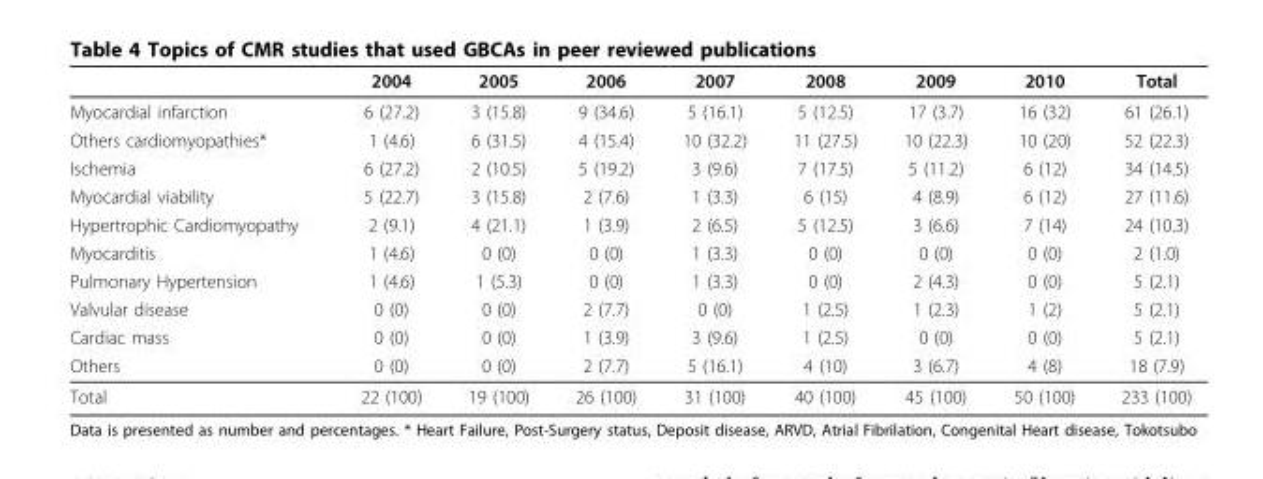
<table><thead><tr><td></td><td>2004</td><td>2005</td><td>2006</td><td>2007</td><td>2008</td><td>2009</td><td>2010</td><td>Total</td></tr></thead><tbody><tr><td>Myocardial infarction</td><td>6 (27.2)</td><td>3 (15.8)</td><td>9 (34.6)</td><td>5 (16.1)</td><td>5 (12.5)</td><td>17 (3.7)</td><td>16 (32)</td><td>61 (26.1)</td></tr><tr><td>Others cardiomyopathies*</td><td>1 (4.6)</td><td>6 (31.5)</td><td>4 (15.4)</td><td>10 (32.2)</td><td>11 (27.5)</td><td>10 (22.3)</td><td>10 (20)</td><td>52 (22.3)</td></tr><tr><td>Ischemia</td><td>6 (27.2)</td><td>2 (10.5)</td><td>5 (19.2)</td><td>3 (9.6)</td><td>7 (17.5)</td><td>5 (11.2)</td><td>6 (12)</td><td>34 (14.5)</td></tr><tr><td>Myocardial viability</td><td>5 (22.7)</td><td>3 (15.8)</td><td>2 (7.6)</td><td>1 (3.3)</td><td>6 (15)</td><td>4 (8.9)</td><td>6 (12)</td><td>27 (11.6)</td></tr><tr><td>Hypertrophic Cardiomyopathy</td><td>2 (9.1)</td><td>4 (21.1)</td><td>1 (3.9)</td><td>2 (6.5)</td><td>5 (12.5)</td><td>3 (6.6)</td><td>7 (14)</td><td>24 (10.3)</td></tr><tr><td>Myocarditis</td><td>1 (4.6)</td><td>0 (0)</td><td>0 (0)</td><td>1 (3.3)</td><td>0 (0)</td><td>0 (0)</td><td>0 (0)</td><td>2 (1.0)</td></tr><tr><td>Pulmonary Hypertension</td><td>1 (4.6)</td><td>1 (5.3)</td><td>0 (0)</td><td>1 (3.3)</td><td>0 (0)</td><td>2 (4.3)</td><td>0 (0)</td><td>5 (2.1)</td></tr><tr><td>Valvular disease</td><td>0 (0)</td><td>0 (0)</td><td>2 (7.7)</td><td>0 (0)</td><td>1 (2.5)</td><td>1 (2.3)</td><td>1 (2)</td><td>5 (2.1)</td></tr><tr><td>Cardiac mass</td><td>0 (0)</td><td>0 (0)</td><td>1 (3.9)</td><td>3 (9.6)</td><td>1 (2.5)</td><td>0 (0)</td><td>0 (0)</td><td>5 (2.1)</td></tr><tr><td>Others</td><td>0 (0)</td><td>0 (0)</td><td>2 (7.7)</td><td>5 (16.1)</td><td>4 (10)</td><td>3 (6.7)</td><td>4 (8)</td><td>18 (7.9)</td></tr><tr><td>Total</td><td>22 (100)</td><td>19 (100)</td><td>26 (100)</td><td>31 (100)</td><td>40 (100)</td><td>45 (100)</td><td>50 (100)</td><td>233 (100)</td></tr></tbody></table>